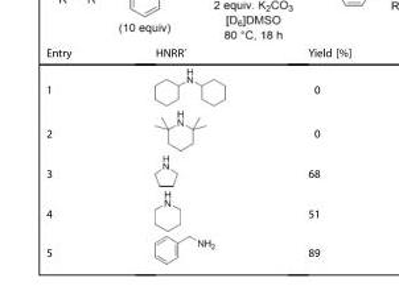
<table><thead><tr><td>Entry</td><td>HNRR’</td><td>Yield [%]</td></tr></thead><tbody><tr><td>1</td><td></td><td>0</td></tr><tr><td>2</td><td></td><td>0</td></tr><tr><td>3</td><td></td><td>68</td></tr><tr><td>4</td><td></td><td>51</td></tr><tr><td>5</td><td></td><td>89</td></tr></tbody></table>